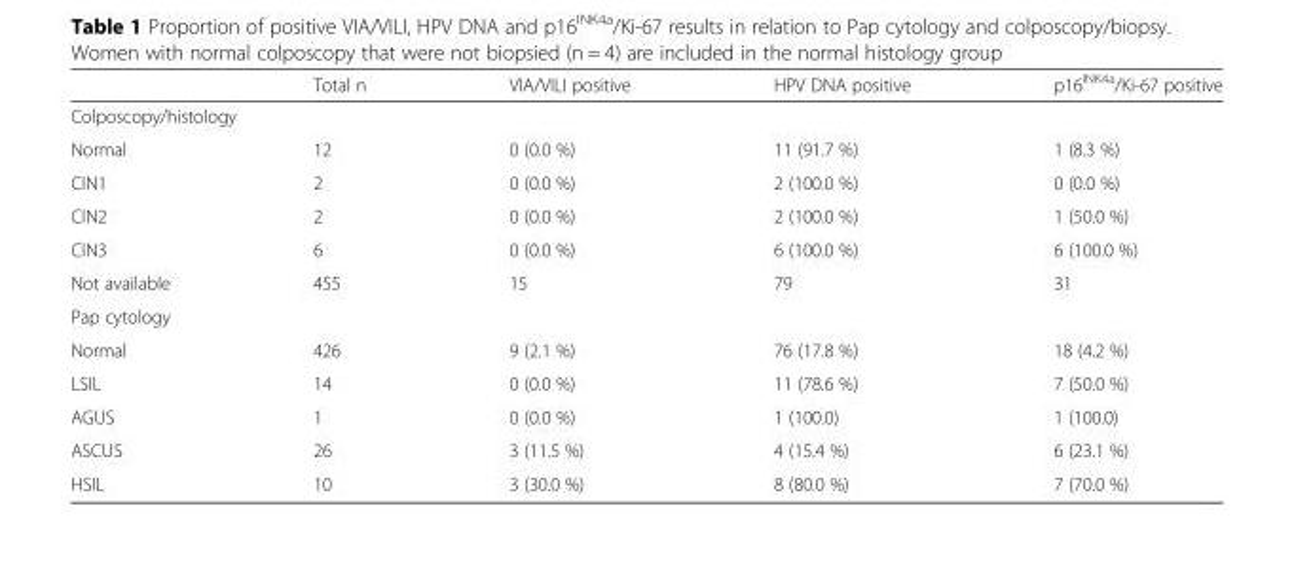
<table><thead><tr><td></td><td>Total n</td><td>VIA/VILI positive</td><td>HPV DNA positive</td><td>p16<sup>INK4a</sup>/Ki-67 positive</td></tr></thead><tbody><tr><td colspan="5">Colposcopy/histology</td></tr><tr><td>Normal</td><td>12</td><td>0 (0.0 %)</td><td>11 (91.7 %)</td><td>1 (8.3 %)</td></tr><tr><td>CIN1</td><td>2</td><td>0 (0.0 %)</td><td>2 (100.0 %)</td><td>0 (0.0 %)</td></tr><tr><td>CIN2</td><td>2</td><td>0 (0.0 %)</td><td>2 (100.0 %)</td><td>1 (50.0 %)</td></tr><tr><td>CIN3</td><td>6</td><td>0 (0.0 %)</td><td>6 (100.0 %)</td><td>6 (100.0 %)</td></tr><tr><td>Not available</td><td>455</td><td>15</td><td>79</td><td>31</td></tr><tr><td colspan="5">Pap cytology</td></tr><tr><td>Normal</td><td>426</td><td>9 (2.1 %)</td><td>76 (17.8 %)</td><td>18 (4.2 %)</td></tr><tr><td>LSIL</td><td>14</td><td>0 (0.0 %)</td><td>11 (78.6 %)</td><td>7 (50.0 %)</td></tr><tr><td>AGUS</td><td>1</td><td>0 (0.0 %)</td><td>1 (100.0)</td><td>1 (100.0)</td></tr><tr><td>ASCUS</td><td>26</td><td>3 (11.5 %)</td><td>4 (15.4 %)</td><td>6 (23.1 %)</td></tr><tr><td>HSIL</td><td>10</td><td>3 (30.0 %)</td><td>8 (80.0 %)</td><td>7 (70.0 %)</td></tr></tbody></table>